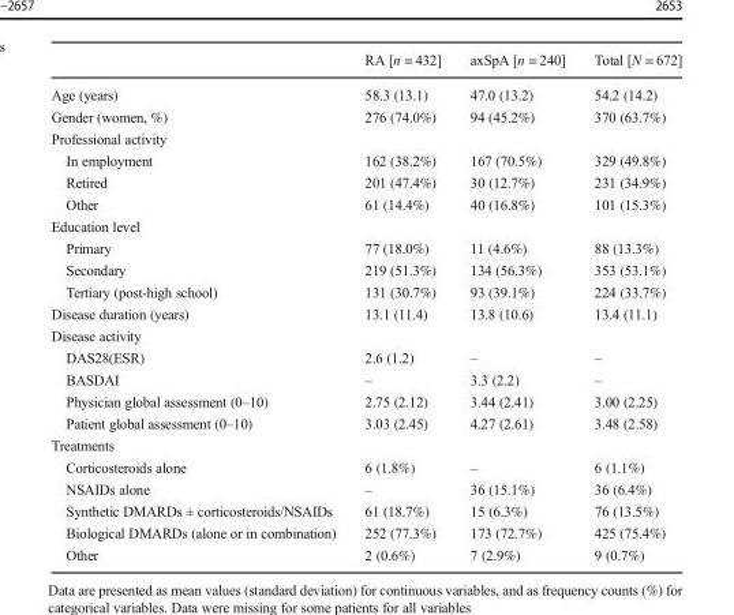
<table><thead><tr><td></td><td>RA [n = 432]</td><td>axSpA [n = 240]</td><td>Total [N = 672]</td></tr></thead><tbody><tr><td>Age (years)</td><td>58.3 (13.1)</td><td>47.0 (13.2)</td><td>54.2 (14.2)</td></tr><tr><td>Gender (women, %)</td><td>276 (74.0%)</td><td>94 (45.2%)</td><td>370 (63.7%)</td></tr><tr><td colspan="4">Professional activity</td></tr><tr><td>In employment</td><td>162 (38.2%)</td><td>167 (70.5%)</td><td>329 (49.8%)</td></tr><tr><td>Retired</td><td>201 (47.4%)</td><td>30 (12.7%)</td><td>231 (34.9%)</td></tr><tr><td>Other</td><td>61 (14.4%)</td><td>40 (16.8%)</td><td>101 (15.3%)</td></tr><tr><td colspan="4">Education level</td></tr><tr><td>Primary</td><td>77 (18.0%)</td><td>11 (4.6%)</td><td>88 (13.3%)</td></tr><tr><td>Secondary</td><td>219 (51.3%)</td><td>134 (56.3%)</td><td>353 (53.1%)</td></tr><tr><td>Tertiary (post-high school)</td><td>131 (30.7%)</td><td>93 (39.1%)</td><td>224 (33.7%)</td></tr><tr><td>Disease duration (years)</td><td>13.1 (11.4)</td><td>13.8 (10.6)</td><td>13.4 (11.1)</td></tr><tr><td colspan="4">Disease activity</td></tr><tr><td>DAS28(ESR)</td><td>2.6 (1.2)</td><td>–</td><td>–</td></tr><tr><td>BASDAI</td><td>–</td><td>3.3 (2.2)</td><td>–</td></tr><tr><td>Physician global assessment (0–10)</td><td>2.75 (2.12)</td><td>3.44 (2.41)</td><td>3.00 (2.25)</td></tr><tr><td>Patient global assessment (0–10)</td><td>3.03 (2.45)</td><td>4.27 (2.61)</td><td>3.48 (2.58)</td></tr><tr><td colspan="4">Treatments</td></tr><tr><td>Corticosteroids alone</td><td>6 (1.8%)</td><td>–</td><td>6 (1.1%)</td></tr><tr><td>NSAIDs alone</td><td>–</td><td>36 (15.1%)</td><td>36 (6.4%)</td></tr><tr><td>Synthetic DMARDs ± corticosteroids/NSAIDs</td><td>61 (18.7%)</td><td>15 (6.3%)</td><td>76 (13.5%)</td></tr><tr><td>Biological DMARDs (alone or in combination)</td><td>252 (77.3%)</td><td>173 (72.7%)</td><td>425 (75.4%)</td></tr><tr><td>Other</td><td>2 (0.6%)</td><td>7 (2.9%)</td><td>9 (0.7%)</td></tr></tbody></table>